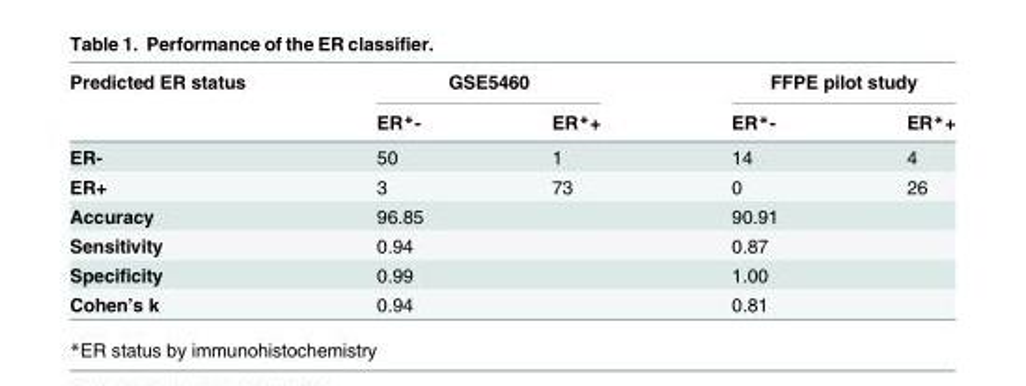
<table><thead><tr><td rowspan="2">Predicted ER status</td><td colspan="2">GSE5460</td><td colspan="2">FFPE pilot study</td></tr><tr><td>ER*-</td><td>ER*+</td><td>ER*-</td><td>ER*+</td></tr></thead><tbody><tr><td>ER-</td><td>50</td><td>1</td><td>14</td><td>4</td></tr><tr><td>ER+</td><td>3</td><td>73</td><td>0</td><td>26</td></tr><tr><td>Accuracy</td><td colspan="2">96.85</td><td colspan="2">90.91</td></tr><tr><td>Sensitivity</td><td colspan="2">0.94</td><td colspan="2">0.87</td></tr><tr><td>Specificity</td><td colspan="2">0.99</td><td colspan="2">1.00</td></tr><tr><td>Cohen’s k</td><td colspan="2">0.94</td><td colspan="2">0.81</td></tr></tbody></table>